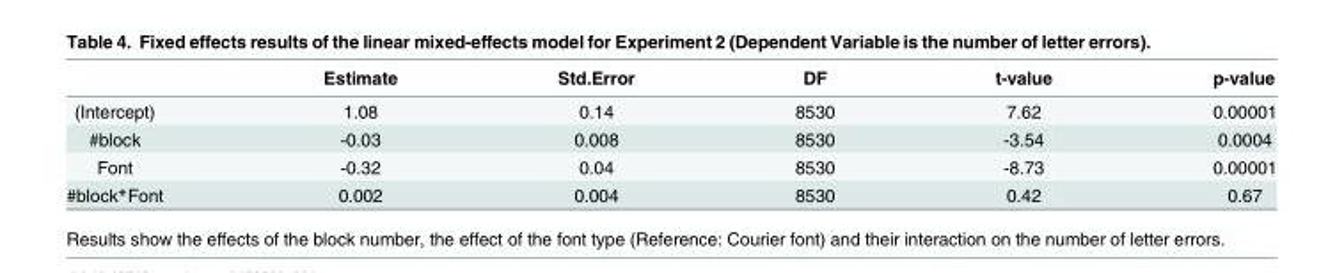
<table><thead><tr><td></td><td>Estimate</td><td>Std.Error</td><td>DF</td><td>t-value</td><td>p-value</td></tr></thead><tbody><tr><td>(Intercept)</td><td>1.08</td><td>0.14</td><td>8530</td><td>7.62</td><td>0.00001</td></tr><tr><td>#block</td><td>-0.03</td><td>0.008</td><td>8530</td><td>-3.54</td><td>0.0004</td></tr><tr><td>Font</td><td>-0.32</td><td>0.04</td><td>8530</td><td>-8.73</td><td>0.00001</td></tr><tr><td>#block*Font</td><td>0.002</td><td>0.004</td><td>8530</td><td>0.42</td><td>0.67</td></tr></tbody></table>